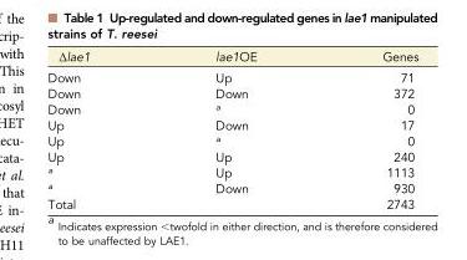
<table><thead><tr><td>Δlae1</td><td>lae1OE</td><td>Genes</td></tr></thead><tbody><tr><td>Down</td><td>Up</td><td>71</td></tr><tr><td>Down</td><td>Down</td><td>372</td></tr><tr><td>Down</td><td><sup>a</sup></td><td>0</td></tr><tr><td>Up</td><td>Down</td><td>17</td></tr><tr><td>Up</td><td><sup>a</sup></td><td>0</td></tr><tr><td>Up</td><td>Up</td><td>240</td></tr><tr><td><sup>a</sup></td><td>Up</td><td>1113</td></tr><tr><td><sup>a</sup></td><td>Down</td><td>930</td></tr><tr><td>Total</td><td></td><td>2743</td></tr></tbody></table>